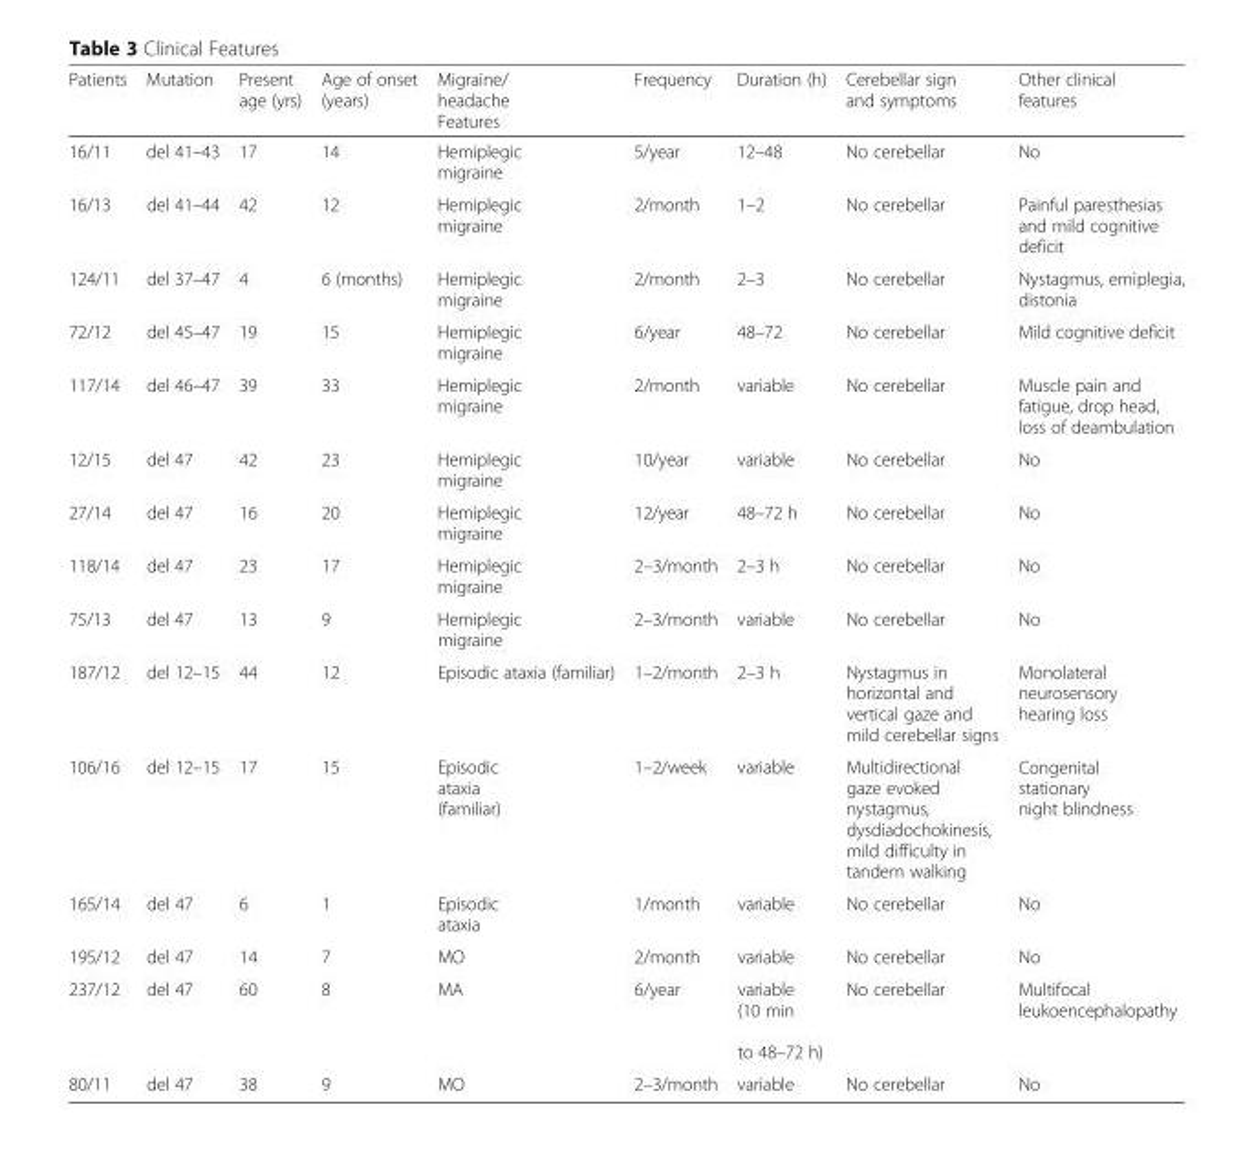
<table><thead><tr><td>Patients</td><td>Mutation</td><td>Present age (yrs)</td><td>Age of onset (years)</td><td>Migraine/ headache Features</td><td>Frequency</td><td>Duration (h)</td><td>Cerebellar sign and symptoms</td><td>Other clinical features</td></tr></thead><tbody><tr><td>16/11</td><td>del 41–43</td><td>17</td><td>14</td><td>Hemiplegic migraine</td><td>5/year</td><td>12–48</td><td>No cerebellar</td><td>No</td></tr><tr><td>16/13</td><td>del 41–44</td><td>42</td><td>12</td><td>Hemiplegic migraine</td><td>2/month</td><td>1–2</td><td>No cerebellar</td><td>Painful paresthesias and mild cognitive deficit</td></tr><tr><td>124/11</td><td>del 37–47</td><td>4</td><td>6 (months)</td><td>Hemiplegic migraine</td><td>2/month</td><td>2–3</td><td>No cerebellar</td><td>Nystagmus, emiplegia, distonia</td></tr><tr><td>72/12</td><td>del 45–47</td><td>19</td><td>15</td><td>Hemiplegic migraine</td><td>6/year</td><td>48–72</td><td>No cerebellar</td><td>Mild cognitive deficit</td></tr><tr><td>117/14</td><td>del 46–47</td><td>39</td><td>33</td><td>Hemiplegic migraine</td><td>2/month</td><td>variable</td><td>No cerebellar</td><td>Muscle pain and fatigue, drop head, loss of deambulation</td></tr><tr><td>12/15</td><td>del 47</td><td>42</td><td>23</td><td>Hemiplegic migraine</td><td>10/year</td><td>variable</td><td>No cerebellar</td><td>No</td></tr><tr><td>27/14</td><td>del 47</td><td>16</td><td>20</td><td>Hemiplegic migraine</td><td>12/year</td><td>48–72 h</td><td>No cerebellar</td><td>No</td></tr><tr><td>118/14</td><td>del 47</td><td>23</td><td>17</td><td>Hemiplegic migraine</td><td>2–3/month</td><td>2–3 h</td><td>No cerebellar</td><td>No</td></tr><tr><td>75/13</td><td>del 47</td><td>13</td><td>9</td><td>Hemiplegic migraine</td><td>2–3/month</td><td>variable</td><td>No cerebellar</td><td>No</td></tr><tr><td>187/12</td><td>del 12–15</td><td>44</td><td>12</td><td>Episodic ataxia (familiar)</td><td>1–2/month</td><td>2–3 h</td><td>Nystagmus in horizontal and vertical gaze and mild cerebellar signs</td><td>Monolateral neurosensory hearing loss</td></tr><tr><td>106/16</td><td>del 12–15</td><td>17</td><td>15</td><td>Episodic ataxia (familiar)</td><td>1–2/week</td><td>variable</td><td>Multidirectional gaze evoked nystagmus, dysdiadochokinesis, mild difficulty in tandem walking</td><td>Congenital stationary night blindness</td></tr><tr><td>165/14</td><td>del 47</td><td>6</td><td>1</td><td>Episodic ataxia</td><td>1/month</td><td>variable</td><td>No cerebellar</td><td>No</td></tr><tr><td>195/12</td><td>del 47</td><td>14</td><td>7</td><td>MO</td><td>2/month</td><td>variable</td><td>No cerebellar</td><td>No</td></tr><tr><td>237/12</td><td>del 47</td><td>60</td><td>8</td><td>MA</td><td>6/year</td><td>variable (10 min to 48–72 h)</td><td>No cerebellar</td><td>Multifocal leukoencephalopathy</td></tr><tr><td>80/11</td><td>del 47</td><td>38</td><td>9</td><td>MO</td><td>2–3/month</td><td>variable</td><td>No cerebellar</td><td>No</td></tr></tbody></table>